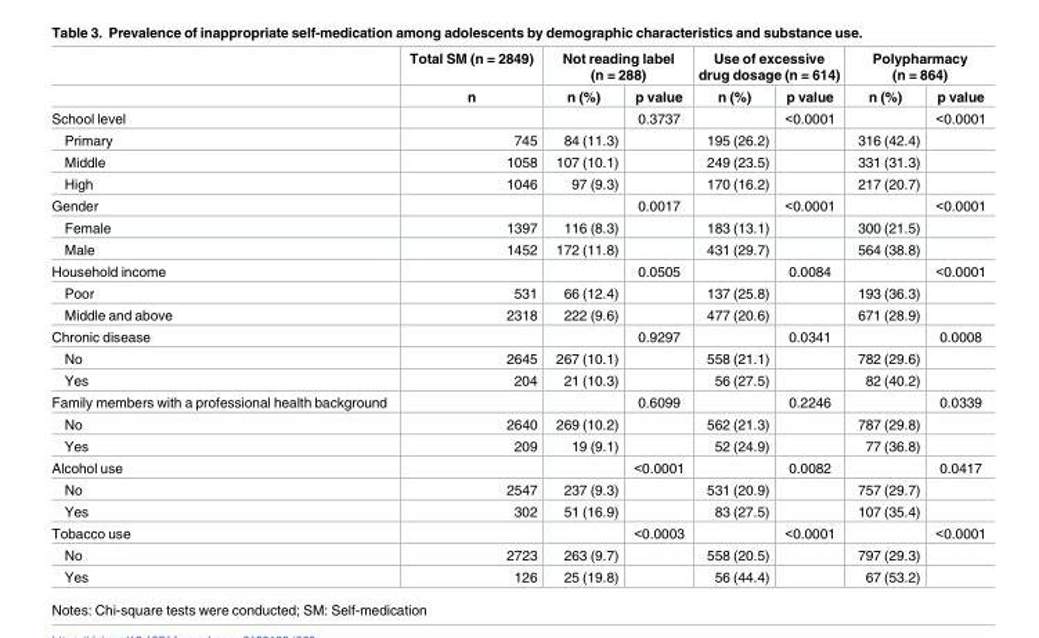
<table><thead><tr><td rowspan="2"></td><td rowspan="2">Total SM (n = 2849) n</td><td colspan="2">Not reading label (n = 288)</td><td colspan="2">Use of excessive drug dosage (n = 614)</td><td colspan="2">Polypharmacy (n = 864)</td></tr><tr><td>n (%)</td><td>p value</td><td>n (%)</td><td>p value</td><td>n (%)</td><td>p value</td></tr></thead><tbody><tr><td>School level</td><td></td><td></td><td>0.3737</td><td></td><td>&lt;0.0001</td><td></td><td>&lt;0.0001</td></tr><tr><td>Primary</td><td>745</td><td>84 (11.3)</td><td></td><td>195 (26.2)</td><td></td><td>316 (42.4)</td><td></td></tr><tr><td>Middle</td><td>1058</td><td>107 (10.1)</td><td></td><td>249 (23.5)</td><td></td><td>331 (31.3)</td><td></td></tr><tr><td>High</td><td>1046</td><td>97 (9.3)</td><td></td><td>170 (16.2)</td><td></td><td>217 (20.7)</td><td></td></tr><tr><td>Gender</td><td></td><td></td><td>0.0017</td><td></td><td>&lt;0.0001</td><td></td><td>&lt;0.0001</td></tr><tr><td>Female</td><td>1397</td><td>116 (8.3)</td><td></td><td>183 (13.1)</td><td></td><td>300 (21.5)</td><td></td></tr><tr><td>Male</td><td>1452</td><td>172 (11.8)</td><td></td><td>431 (29.7)</td><td></td><td>564 (38.8)</td><td></td></tr><tr><td>Household income</td><td></td><td></td><td>0.0505</td><td></td><td>0.0084</td><td></td><td>&lt;0.0001</td></tr><tr><td>Poor</td><td>531</td><td>66 (12.4)</td><td></td><td>137 (25.8)</td><td></td><td>193 (36.3)</td><td></td></tr><tr><td>Middle and above</td><td>2318</td><td>222 (9.6)</td><td></td><td>477 (20.6)</td><td></td><td>671 (28.9)</td><td></td></tr><tr><td>Chronic disease</td><td></td><td></td><td>0.9297</td><td></td><td>0.0341</td><td></td><td>0.0008</td></tr><tr><td>No</td><td>2645</td><td>267 (10.1)</td><td></td><td>558 (21.1)</td><td></td><td>782 (29.6)</td><td></td></tr><tr><td>Yes</td><td>204</td><td>21 (10.3)</td><td></td><td>56 (27.5)</td><td></td><td>82 (40.2)</td><td></td></tr><tr><td>Family members with a professional health background</td><td></td><td></td><td>0.6099</td><td></td><td>0.2246</td><td></td><td>0.0339</td></tr><tr><td>No</td><td>2640</td><td>269 (10.2)</td><td></td><td>562 (21.3)</td><td></td><td>787 (29.8)</td><td></td></tr><tr><td>Yes</td><td>209</td><td>19 (9.1)</td><td></td><td>52 (24.9)</td><td></td><td>77 (36.8)</td><td></td></tr><tr><td>Alcohol use</td><td></td><td></td><td>&lt;0.0001</td><td></td><td>0.0082</td><td></td><td>0.0417</td></tr><tr><td>No</td><td>2547</td><td>237 (9.3)</td><td></td><td>531 (20.9)</td><td></td><td>757 (29.7)</td><td></td></tr><tr><td>Yes</td><td>302</td><td>51 (16.9)</td><td></td><td>83 (27.5)</td><td></td><td>107 (35.4)</td><td></td></tr><tr><td>Tobacco use</td><td></td><td></td><td>&lt;0.0003</td><td></td><td>&lt;0.0001</td><td></td><td>&lt;0.0001</td></tr><tr><td>No</td><td>2723</td><td>263 (9.7)</td><td></td><td>558 (20.5)</td><td></td><td>797 (29.3)</td><td></td></tr><tr><td>Yes</td><td>126</td><td>25 (19.8)</td><td></td><td>56 (44.4)</td><td></td><td>67 (53.2)</td><td></td></tr></tbody></table>